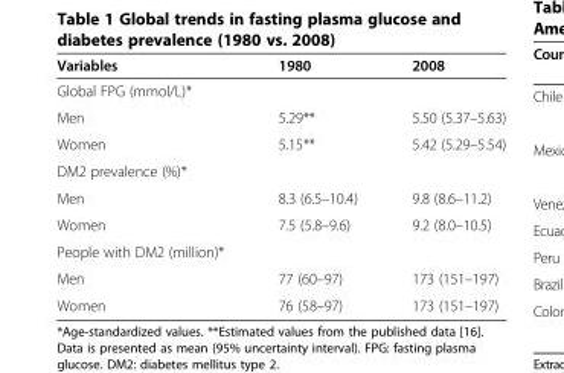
<table><thead><tr><td>Variables</td><td>1980</td><td>2008</td></tr></thead><tbody><tr><td colspan="3">Global FPG (mmol/L)*</td></tr><tr><td>Men</td><td>5.29**</td><td>5.50 (5.37–5.63)</td></tr><tr><td>Women</td><td>5.15**</td><td>5.42 (5.29–5.54)</td></tr><tr><td colspan="3">DM2 prevalence (%)*</td></tr><tr><td>Men</td><td>8.3 (6.5–10.4)</td><td>9.8 (8.6–11.2)</td></tr><tr><td>Women</td><td>7.5 (5.8–9.6)</td><td>9.2 (8.0–10.5)</td></tr><tr><td colspan="3">People with DM2 (million)*</td></tr><tr><td>Men</td><td>77 (60–97)</td><td>173 (151–197)</td></tr><tr><td>Women</td><td>76 (58–97)</td><td>173 (151–197)</td></tr></tbody></table>